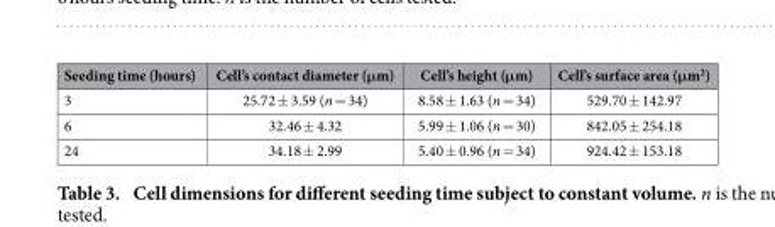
<table><thead><tr><td>Seeding time (hours)</td><td>Cell’s contact diameter (μm)</td><td>Cell’s height (μm)</td><td>Cell’s surface area (μm<sup>2</sup>)</td></tr></thead><tbody><tr><td>3</td><td>25.72 ± 3.59 (n = 34)</td><td>8.58 ± 1.63 (n = 34)</td><td>529.70 ± 142.97</td></tr><tr><td>6</td><td>32.46 ± 4.32</td><td>5.99 ± 1.06 (n = 30)</td><td>842.05 ± 254.18</td></tr><tr><td>24</td><td>34.18 ± 2.99</td><td>5.40 ± 0.96 (n = 34)</td><td>924.42 ± 153.18</td></tr></tbody></table>